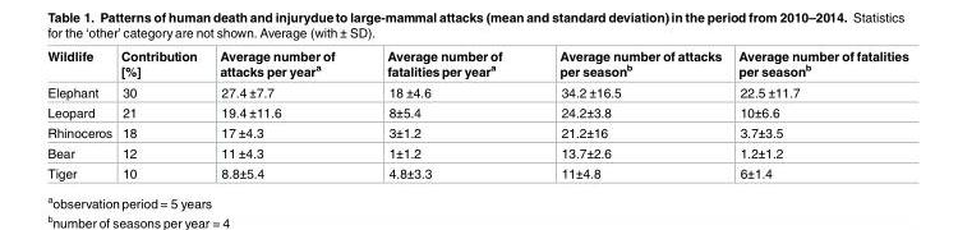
<table><thead><tr><td>Wildlife</td><td>Contribution [%]</td><td>Average number of attacks per year<sup>a</sup></td><td>Average number of fatalities per year<sup>a</sup></td><td>Average number of attacks per season<sup>b</sup></td><td>Average number of fatalities per season<sup>b</sup></td></tr></thead><tbody><tr><td>Elephant</td><td>30</td><td>27.4 ±7.7</td><td>18 ±4.6</td><td>34.2 ±16.5</td><td>22.5 ±11.7</td></tr><tr><td>Leopard</td><td>21</td><td>19.4 ±11.6</td><td>8±5.4</td><td>24.2±3.8</td><td>10±6.6</td></tr><tr><td>Rhinoceros</td><td>18</td><td>17 ±4.3</td><td>3±1.2</td><td>21.2±16</td><td>3.7±3.5</td></tr><tr><td>Bear</td><td>12</td><td>11 ±4.3</td><td>1±1.2</td><td>13.7±2.6</td><td>1.2±1.2</td></tr><tr><td>Tiger</td><td>10</td><td>8.8±5.4</td><td>4.8±3.3</td><td>11±4.8</td><td>6±1.4</td></tr></tbody></table>